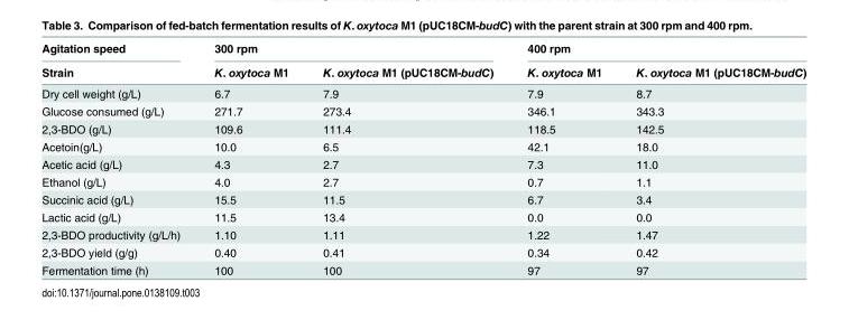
<table><thead><tr><td rowspan="2">Agitation speed Strain</td><td colspan="2">300 rpm</td><td colspan="2">400 rpm</td></tr><tr><td>K. oxytoca M1</td><td>K. oxytoca M1 (pUC18CM-budC)</td><td>K. oxytoca M1</td><td>K. oxytoca M1 (pUC18CM-budC)</td></tr></thead><tbody><tr><td>Dry cell weight (g/L)</td><td>6.7</td><td>7.9</td><td>7.9</td><td>8.7</td></tr><tr><td>Glucose consumed (g/L)</td><td>271.7</td><td>273.4</td><td>346.1</td><td>343.3</td></tr><tr><td>2,3-BDO (g/L)</td><td>109.6</td><td>111.4</td><td>118.5</td><td>142.5</td></tr><tr><td>Acetoin(g/L)</td><td>10.0</td><td>6.5</td><td>42.1</td><td>18.0</td></tr><tr><td>Acetic acid (g/L)</td><td>4.3</td><td>2.7</td><td>7.3</td><td>11.0</td></tr><tr><td>Ethanol (g/L)</td><td>4.0</td><td>2.7</td><td>0.7</td><td>1.1</td></tr><tr><td>Succinic acid (g/L)</td><td>15.5</td><td>11.5</td><td>6.7</td><td>3.4</td></tr><tr><td>Lactic acid (g/L)</td><td>11.5</td><td>13.4</td><td>0.0</td><td>0.0</td></tr><tr><td>2,3-BDO productivity (g/L/h)</td><td>1.10</td><td>1.11</td><td>1.22</td><td>1.47</td></tr><tr><td>2,3-BDO yield (g/g)</td><td>0.40</td><td>0.41</td><td>0.34</td><td>0.42</td></tr><tr><td>Fermentation time (h)</td><td>100</td><td>100</td><td>97</td><td>97</td></tr></tbody></table>